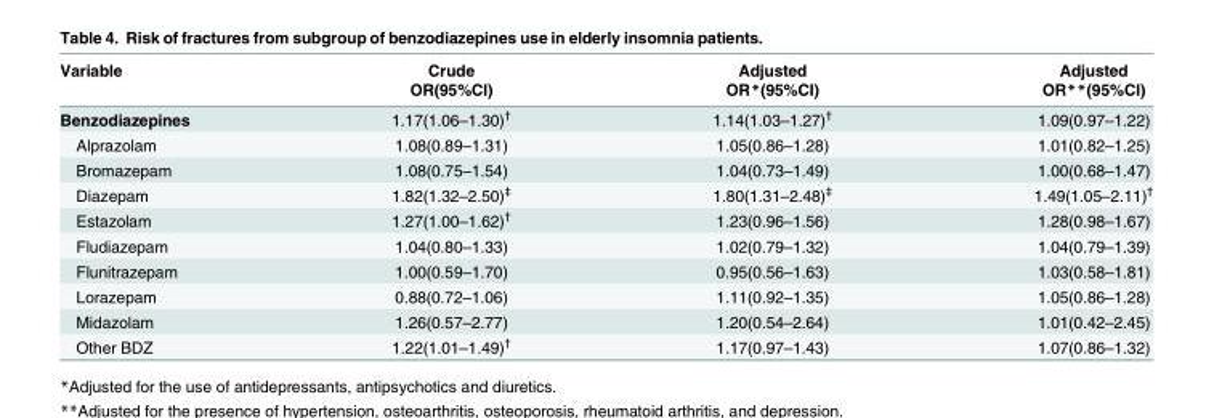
<table><thead><tr><td rowspan="2">Variable</td><td rowspan="2">Crude OR(95%CI)</td><td rowspan="2">Adjusted OR*(95%CI)</td><td rowspan="2">Adjusted OR**(95%CI)</td></tr><tr></tr></thead><tbody><tr><td>Benzodiazepines</td><td>1.17(1.06–1.30)<sup>†</sup></td><td>1.14(1.03–1.27)<sup>†</sup></td><td>1.09(0.97–1.22)</td></tr><tr><td>Alprazolam</td><td>1.08(0.89–1.31)</td><td>1.05(0.86–1.28)</td><td>1.01(0.82–1.25)</td></tr><tr><td>Bromazepam</td><td>1.08(0.75–1.54)</td><td>1.04(0.73–1.49)</td><td>1.00(0.68–1.47)</td></tr><tr><td>Diazepam</td><td>1.82(1.32–2.50)<sup>‡</sup></td><td>1.80(1.31–2.48)<sup>‡</sup></td><td>1.49(1.05–2.11)<sup>†</sup></td></tr><tr><td>Estazolam</td><td>1.27(1.00–1.62)<sup>†</sup></td><td>1.23(0.96–1.56)</td><td>1.28(0.98–1.67)</td></tr><tr><td>Fludiazepam</td><td>1.04(0.80–1.33)</td><td>1.02(0.79–1.32)</td><td>1.04(0.79–1.39)</td></tr><tr><td>Flunitrazepam</td><td>1.00(0.59–1.70)</td><td>0.95(0.56–1.63)</td><td>1.03(0.58–1.81)</td></tr><tr><td>Lorazepam</td><td>0.88(0.72–1.06)</td><td>1.11(0.92–1.35)</td><td>1.05(0.86–1.28)</td></tr><tr><td>Midazolam</td><td>1.26(0.57–2.77)</td><td>1.20(0.54–2.64)</td><td>1.01(0.42–2.45)</td></tr><tr><td>Other BDZ</td><td>1.22(1.01–1.49)<sup>†</sup></td><td>1.17(0.97–1.43)</td><td>1.07(0.86–1.32)</td></tr></tbody></table>